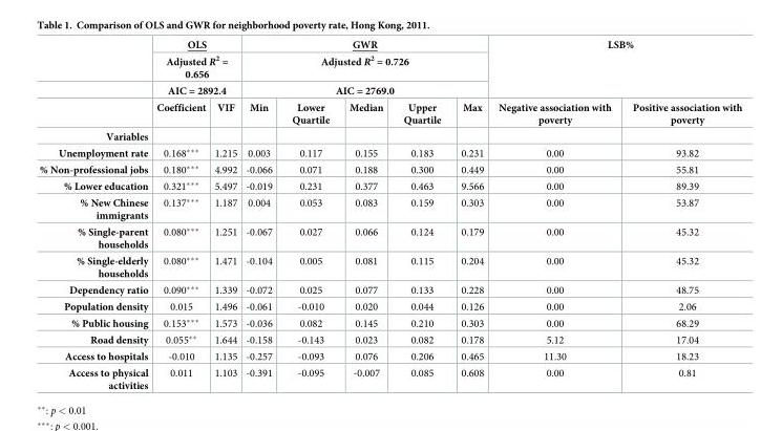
<table><thead><tr><td rowspan="4"></td><td rowspan="3" colspan="2">OLS Adjusted R<sup>2</sup> = 0.656 AIC = 2892.4</td><td rowspan="3" colspan="5">GWR Adjusted R<sup>2</sup> = 0.726 AIC = 2769.0</td><td rowspan="3" colspan="2">LSB%</td></tr><tr></tr><tr></tr><tr><td>Coefficient</td><td>VIF</td><td>Min</td><td>Lower Quartile</td><td>Median</td><td>Upper Quartile</td><td>Max</td><td>Negative association with poverty</td><td>Positive association with poverty</td></tr></thead><tbody><tr><td colspan="10">Variables</td></tr><tr><td>Unemployment rate</td><td>0.168***</td><td>1.215</td><td>0.003</td><td>0.117</td><td>0.155</td><td>0.183</td><td>0.231</td><td>0.00</td><td>93.82</td></tr><tr><td>% Non-professional jobs</td><td>0.180***</td><td>4.992</td><td>-0.066</td><td>0.071</td><td>0.188</td><td>0.300</td><td>0.449</td><td>0.00</td><td>55.81</td></tr><tr><td>% Lower education</td><td>0.321***</td><td>5.497</td><td>-0.019</td><td>0.231</td><td>0.377</td><td>0.463</td><td>9.566</td><td>0.00</td><td>89.39</td></tr><tr><td>% New Chinese immigrants</td><td>0.137***</td><td>1.187</td><td>0.004</td><td>0.053</td><td>0.083</td><td>0.159</td><td>0.303</td><td>0.00</td><td>53.87</td></tr><tr><td>% Single-parent households</td><td>0.080***</td><td>1.251</td><td>-0.067</td><td>0.027</td><td>0.066</td><td>0.124</td><td>0.179</td><td>0.00</td><td>45.32</td></tr><tr><td>% Single-elderly households</td><td>0.080***</td><td>1.471</td><td>-0.104</td><td>0.005</td><td>0.081</td><td>0.115</td><td>0.204</td><td>0.00</td><td>45.32</td></tr><tr><td>Dependency ratio</td><td>0.090***</td><td>1.339</td><td>-0.072</td><td>0.025</td><td>0.077</td><td>0.133</td><td>0.228</td><td>0.00</td><td>48.75</td></tr><tr><td>Population density</td><td>0.015</td><td>1.496</td><td>-0.061</td><td>-0.010</td><td>0.020</td><td>0.044</td><td>0.126</td><td>0.00</td><td>2.06</td></tr><tr><td>% Public housing</td><td>0.153***</td><td>1.573</td><td>-0.036</td><td>0.082</td><td>0.145</td><td>0.210</td><td>0.303</td><td>0.00</td><td>68.29</td></tr><tr><td>Road density</td><td>0.055**</td><td>1.644</td><td>-0.158</td><td>-0.143</td><td>0.023</td><td>0.082</td><td>0.178</td><td>5.12</td><td>17.04</td></tr><tr><td>Access to hospitals</td><td>-0.010</td><td>1.135</td><td>-0.257</td><td>-0.093</td><td>0.076</td><td>0.206</td><td>0.465</td><td>11.30</td><td>18.23</td></tr><tr><td>Access to physical activities</td><td>0.011</td><td>1.103</td><td>-0.391</td><td>-0.095</td><td>-0.007</td><td>0.085</td><td>0.608</td><td>0.00</td><td>0.81</td></tr></tbody></table>